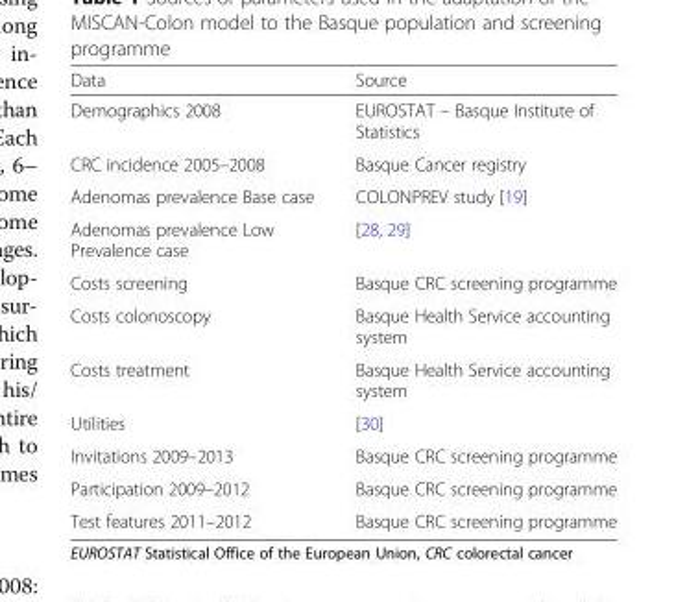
<table><thead><tr><td>Data</td><td>Source</td></tr></thead><tbody><tr><td>Demographics 2008</td><td>EUROSTAT – Basque Institute of Statistics</td></tr><tr><td>CRC incidence 2005–2008</td><td>Basque Cancer registry</td></tr><tr><td>Adenomas prevalence Base case</td><td>COLONPREV study [19]</td></tr><tr><td>Adenomas prevalence Low Prevalence case</td><td>[28, 29]</td></tr><tr><td>Costs screening</td><td>Basque CRC screening programme</td></tr><tr><td>Costs colonoscopy</td><td>Basque Health Service accounting system</td></tr><tr><td>Costs treatment</td><td>Basque Health Service accounting system</td></tr><tr><td>Utilities</td><td>[30]</td></tr><tr><td>Invitations 2009–2013</td><td>Basque CRC screening programme</td></tr><tr><td>Participation 2009–2012</td><td>Basque CRC screening programme</td></tr><tr><td>Test features 2011–2012</td><td>Basque CRC screening programme</td></tr></tbody></table>